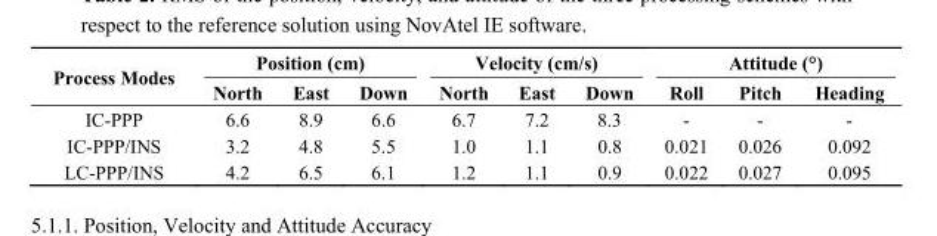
<table><thead><tr><td rowspan="2">Process Modes</td><td colspan="3">Position (cm)</td><td colspan="3">Velocity (cm/s)</td><td colspan="3">Attitude (°)</td></tr><tr><td>North</td><td>East</td><td>Down</td><td>North</td><td>East</td><td>Down</td><td>Roll</td><td>Pitch</td><td>Heading</td></tr></thead><tbody><tr><td>IC-PPP</td><td>6.6</td><td>8.9</td><td>6.6</td><td>6.7</td><td>7.2</td><td>8.3</td><td>-</td><td>-</td><td>-</td></tr><tr><td>IC-PPP/INS</td><td>3.2</td><td>4.8</td><td>5.5</td><td>1.0</td><td>1.1</td><td>0.8</td><td>0.021</td><td>0.026</td><td>0.092</td></tr><tr><td>LC-PPP/INS</td><td>4.2</td><td>6.5</td><td>6.1</td><td>1.2</td><td>1.1</td><td>0.9</td><td>0.022</td><td>0.027</td><td>0.095</td></tr></tbody></table>